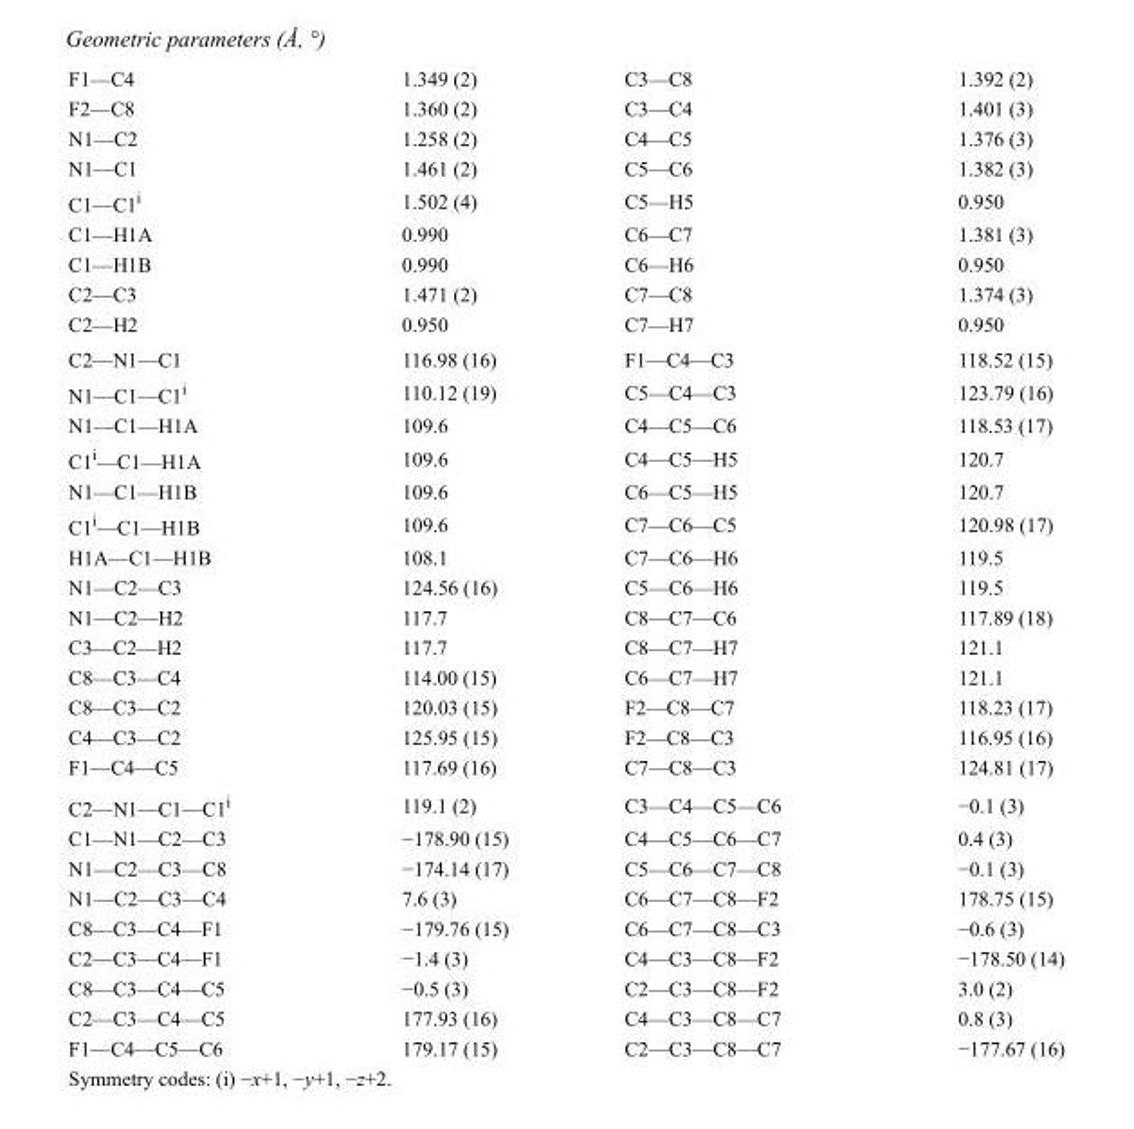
<table><tbody><tr><td>F1—C4</td><td>1.349 (2)</td><td>C3—C8</td><td>1.392 (2)</td></tr><tr><td>F2—C8</td><td>1.360 (2)</td><td>C3—C4</td><td>1.401 (3)</td></tr><tr><td>N1—C2</td><td>1.258 (2)</td><td>C4—C5</td><td>1.376 (3)</td></tr><tr><td>N1—C1</td><td>1.461 (2)</td><td>C5—C6</td><td>1.382 (3)</td></tr><tr><td>C1—C1<sup>i</sup></td><td>1.502 (4)</td><td>C5—H5</td><td>0.950</td></tr><tr><td>C1—H1A</td><td>0.990</td><td>C6—C7</td><td>1.381 (3)</td></tr><tr><td>C1—H1B</td><td>0.990</td><td>C6—H6</td><td>0.950</td></tr><tr><td>C2—C3</td><td>1.471 (2)</td><td>C7—C8</td><td>1.374 (3)</td></tr><tr><td>C2—H2</td><td>0.950</td><td>C7—H7</td><td>0.950</td></tr><tr><td>C2—N1—C1</td><td>116.98 (16)</td><td>F1—C4—C3</td><td>118.52 (15)</td></tr><tr><td>N1—C1—C1<sup>i</sup></td><td>110.12 (19)</td><td>C5—C4—C3</td><td>123.79 (16)</td></tr><tr><td>N1—C1—H1A</td><td>109.6</td><td>C4—C5—C6</td><td>118.53 (17)</td></tr><tr><td>C1<sup>i</sup>—C1—H1A</td><td>109.6</td><td>C4—C5—H5</td><td>120.7</td></tr><tr><td>N1—C1—H1B</td><td>109.6</td><td>C6—C5—H5</td><td>120.7</td></tr><tr><td>C1<sup>i</sup>—C1—H1B</td><td>109.6</td><td>C7—C6—C5</td><td>120.98 (17)</td></tr><tr><td>H1A—C1—H1B</td><td>108.1</td><td>C7—C6—H6</td><td>119.5</td></tr><tr><td>N1—C2—C3</td><td>124.56 (16)</td><td>C5—C6—H6</td><td>119.5</td></tr><tr><td>N1—C2—H2</td><td>117.7</td><td>C8—C7—C6</td><td>117.89 (18)</td></tr><tr><td>C3—C2—H2</td><td>117.7</td><td>C8—C7—H7</td><td>121.1</td></tr><tr><td>C8—C3—C4</td><td>114.00 (15)</td><td>C6—C7—H7</td><td>121.1</td></tr><tr><td>C8—C3—C2</td><td>120.03 (15)</td><td>F2—C8—C7</td><td>118.23 (17)</td></tr><tr><td>C4—C3—C2</td><td>125.95 (15)</td><td>F2—C8—C3</td><td>116.95 (16)</td></tr><tr><td>F1—C4—C5</td><td>117.69 (16)</td><td>C7—C8—C3</td><td>124.81 (17)</td></tr><tr><td>C2—N1—C1—C1<sup>i</sup></td><td>119.1 (2)</td><td>C3—C4—C5—C6</td><td>−0.1 (3)</td></tr><tr><td>C1—N1—C2—C3</td><td>−178.90 (15)</td><td>C4—C5—C6—C7</td><td>0.4 (3)</td></tr><tr><td>N1—C2—C3—C8</td><td>−174.14 (17)</td><td>C5—C6—C7—C8</td><td>−0.1 (3)</td></tr><tr><td>N1—C2—C3—C4</td><td>7.6 (3)</td><td>C6—C7—C8—F2</td><td>178.75 (15)</td></tr><tr><td>C8—C3—C4—F1</td><td>−179.76 (15)</td><td>C6—C7—C8—C3</td><td>−0.6 (3)</td></tr><tr><td>C2—C3—C4—F1</td><td>−1.4 (3)</td><td>C4—C3—C8—F2</td><td>−178.50 (14)</td></tr><tr><td>C8—C3—C4—C5</td><td>−0.5 (3)</td><td>C2—C3—C8—F2</td><td>3.0 (2)</td></tr><tr><td>C2—C3—C4—C5</td><td>177.93 (16)</td><td>C4—C3—C8—C7</td><td>0.8 (3)</td></tr><tr><td>F1—C4—C5—C6</td><td>179.17 (15)</td><td>C2—C3—C8—C7</td><td>−177.67 (16)</td></tr></tbody></table>